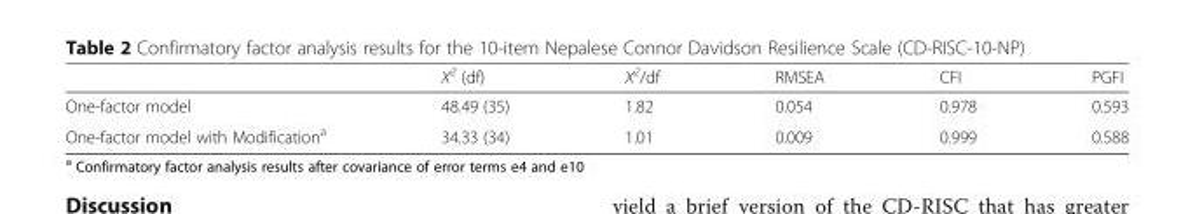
<table><thead><tr><td></td><td>X<sup>2</sup> (df)</td><td>X<sup>2</sup>/df</td><td>RMSEA</td><td>CFI</td><td>PGFI</td></tr></thead><tbody><tr><td>One-factor model</td><td>48.49 (35)</td><td>1.82</td><td>0.054</td><td>0.978</td><td>0.593</td></tr><tr><td>One-factor model with Modification<sup>a</sup></td><td>34.33 (34)</td><td>1.01</td><td>0.009</td><td>0.999</td><td>0.588</td></tr></tbody></table>